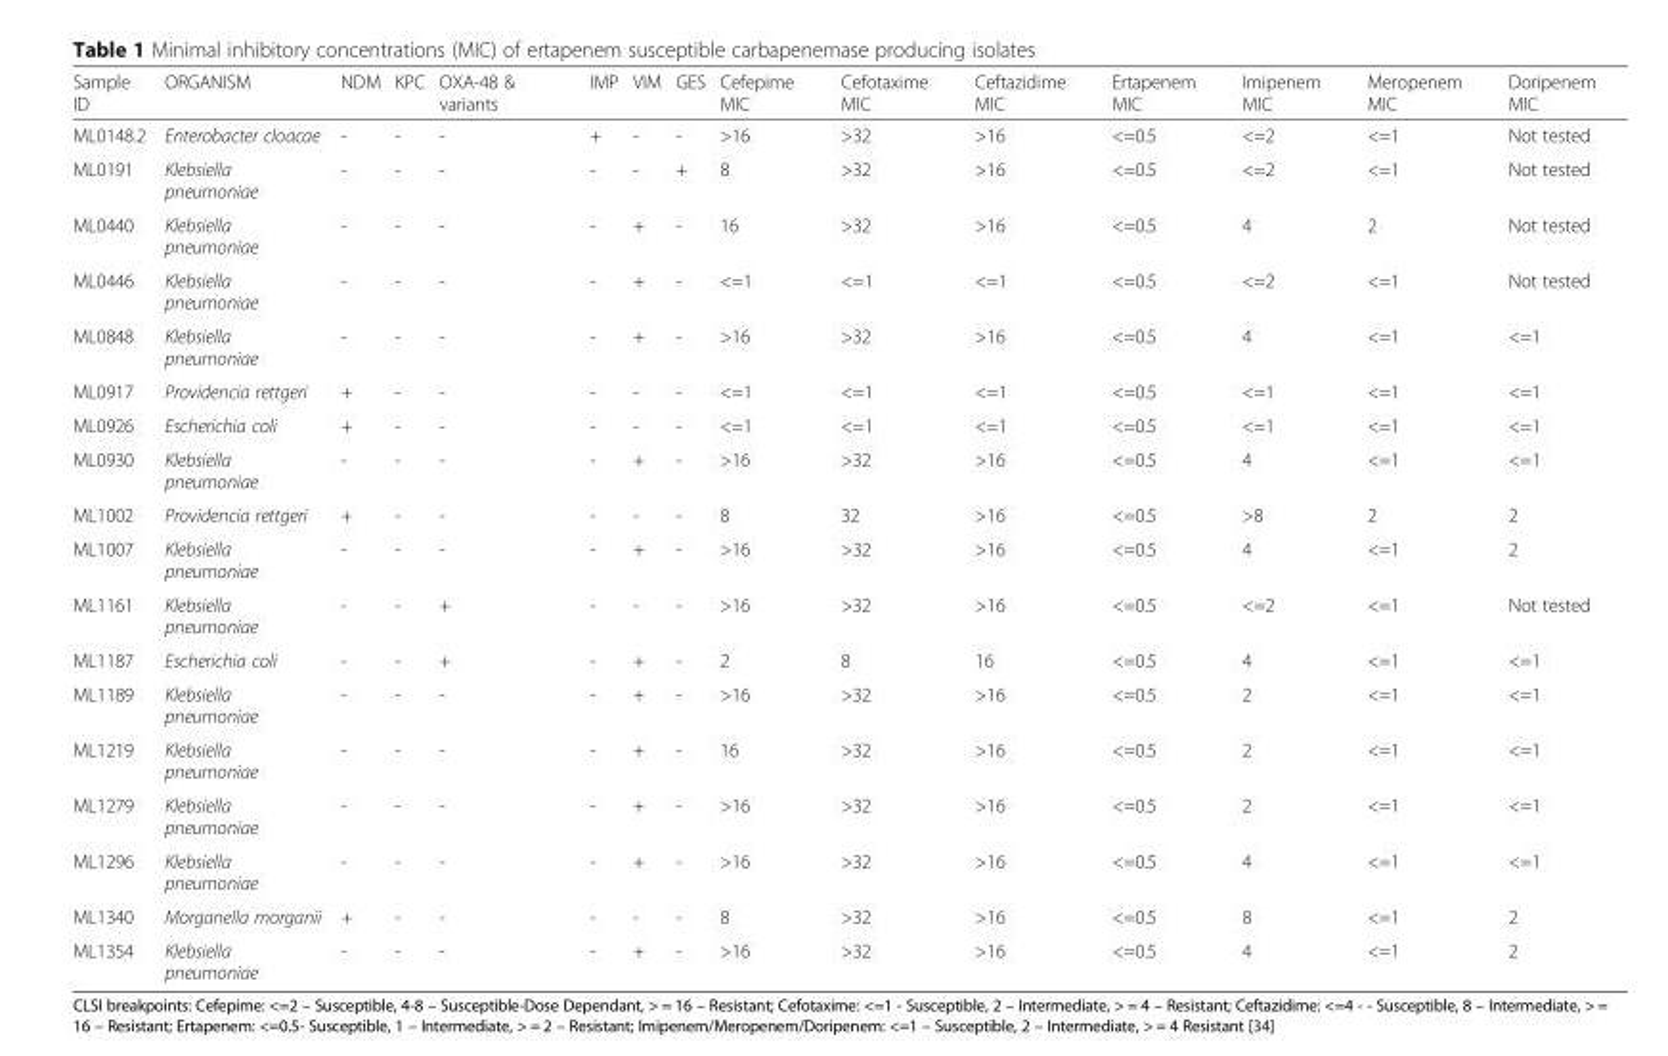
<table><thead><tr><td>Sample ID</td><td>ORGANISM</td><td>NDM</td><td>KPC</td><td>OXA-48 &amp; variants</td><td>IMP</td><td>VIM</td><td>GES</td><td>Cefepime MIC</td><td>Cefotaxime MIC</td><td>Ceftazidime MIC</td><td>Ertapenem MIC</td><td>Imipenem MIC</td><td>Meropenem MIC</td><td>Doripenem MIC</td></tr></thead><tbody><tr><td>ML0148.2</td><td>Enterobacter cloacae</td><td>-</td><td>-</td><td>-</td><td>+</td><td>-</td><td>-</td><td>&gt;16</td><td>&gt;32</td><td>&gt;16</td><td>&lt;=0.5</td><td>&lt;=2</td><td>&lt;=1</td><td>Not tested</td></tr><tr><td>ML0191</td><td>Klebsiella pneumoniae</td><td>-</td><td>-</td><td>-</td><td>-</td><td>-</td><td>+</td><td>8</td><td>&gt;32</td><td>&gt;16</td><td>&lt;=0.5</td><td>&lt;=2</td><td>&lt;=1</td><td>Not tested</td></tr><tr><td>ML0440</td><td>Klebsiella pneumoniae</td><td>-</td><td>-</td><td>-</td><td>-</td><td>+</td><td>-</td><td>16</td><td>&gt;32</td><td>&gt;16</td><td>&lt;=0.5</td><td>4</td><td>2</td><td>Not tested</td></tr><tr><td>ML0446</td><td>Klebsiella pneumoniae</td><td>-</td><td>-</td><td>-</td><td>-</td><td>+</td><td>-</td><td>&lt;=1</td><td>&lt;=1</td><td>&lt;=1</td><td>&lt;=0.5</td><td>&lt;=2</td><td>&lt;=1</td><td>Not tested</td></tr><tr><td>ML0848</td><td>Klebsiella pneumoniae</td><td>-</td><td>-</td><td>-</td><td>-</td><td>+</td><td>-</td><td>&gt;16</td><td>&gt;32</td><td>&gt;16</td><td>&lt;=0.5</td><td>4</td><td>&lt;=1</td><td>&lt;=1</td></tr><tr><td>ML0917</td><td>Providencia rettgeri</td><td>+</td><td>-</td><td>-</td><td>-</td><td>-</td><td>-</td><td>&lt;=1</td><td>&lt;=1</td><td>&lt;=1</td><td>&lt;=0.5</td><td>&lt;=1</td><td>&lt;=1</td><td>&lt;=1</td></tr><tr><td>ML0926</td><td>Escherichia coli</td><td>+</td><td>-</td><td>-</td><td>-</td><td>-</td><td>-</td><td>&lt;=1</td><td>&lt;=1</td><td>&lt;=1</td><td>&lt;=0.5</td><td>&lt;=1</td><td>&lt;=1</td><td>&lt;=1</td></tr><tr><td>ML0930</td><td>Klebsiella pneumoniae</td><td>-</td><td>-</td><td>-</td><td>-</td><td>+</td><td>-</td><td>&gt;16</td><td>&gt;32</td><td>&gt;16</td><td>&lt;=0.5</td><td>4</td><td>&lt;=1</td><td>&lt;=1</td></tr><tr><td>ML1002</td><td>Providencia rettgeri</td><td>+</td><td>-</td><td>-</td><td>-</td><td>-</td><td>-</td><td>8</td><td>32</td><td>&gt;16</td><td>&lt;=0.5</td><td>&gt;8</td><td>2</td><td>2</td></tr><tr><td>ML1007</td><td>Klebsiella pneumoniae</td><td>-</td><td>-</td><td>-</td><td>-</td><td>+</td><td>-</td><td>&gt;16</td><td>&gt;32</td><td>&gt;16</td><td>&lt;=0.5</td><td>4</td><td>&lt;=1</td><td>2</td></tr><tr><td>ML1161</td><td>Klebsiella pneumoniae</td><td>-</td><td>-</td><td>+</td><td>-</td><td>-</td><td>-</td><td>&gt;16</td><td>&gt;32</td><td>&gt;16</td><td>&lt;=0.5</td><td>&lt;=2</td><td>&lt;=1</td><td>Not tested</td></tr><tr><td>ML1187</td><td>Escherichia coli</td><td>-</td><td>-</td><td>+</td><td>-</td><td>+</td><td>-</td><td>2</td><td>8</td><td>16</td><td>&lt;=0.5</td><td>4</td><td>&lt;=1</td><td>&lt;=1</td></tr><tr><td>ML1189</td><td>Klebsiella pneumoniae</td><td>-</td><td>-</td><td>-</td><td>-</td><td>+</td><td>-</td><td>&gt;16</td><td>&gt;32</td><td>&gt;16</td><td>&lt;=0.5</td><td>2</td><td>&lt;=1</td><td>&lt;=1</td></tr><tr><td>ML1219</td><td>Klebsiella pneumoniae</td><td>-</td><td>-</td><td>-</td><td>-</td><td>+</td><td>-</td><td>16</td><td>&gt;32</td><td>&gt;16</td><td>&lt;=0.5</td><td>2</td><td>&lt;=1</td><td>&lt;=1</td></tr><tr><td>ML1279</td><td>Klebsiella pneumoniae</td><td>-</td><td>-</td><td>-</td><td>-</td><td>+</td><td>-</td><td>&gt;16</td><td>&gt;32</td><td>&gt;16</td><td>&lt;=0.5</td><td>2</td><td>&lt;=1</td><td>&lt;=1</td></tr><tr><td>ML1296</td><td>Klebsiella pneumoniae</td><td>-</td><td>-</td><td>-</td><td>-</td><td>+</td><td>-</td><td>&gt;16</td><td>&gt;32</td><td>&gt;16</td><td>&lt;=0.5</td><td>4</td><td>&lt;=1</td><td>&lt;=1</td></tr><tr><td>ML1340</td><td>Morganella morganii</td><td>+</td><td>-</td><td>-</td><td>-</td><td>-</td><td>-</td><td>8</td><td>&gt;32</td><td>&gt;16</td><td>&lt;=0.5</td><td>8</td><td>&lt;=1</td><td>2</td></tr><tr><td>ML1354</td><td>Klebsiella pneumoniae</td><td>-</td><td>-</td><td>-</td><td>-</td><td>+</td><td>-</td><td>&gt;16</td><td>&gt;32</td><td>&gt;16</td><td>&lt;=0.5</td><td>4</td><td>&lt;=1</td><td>2</td></tr></tbody></table>